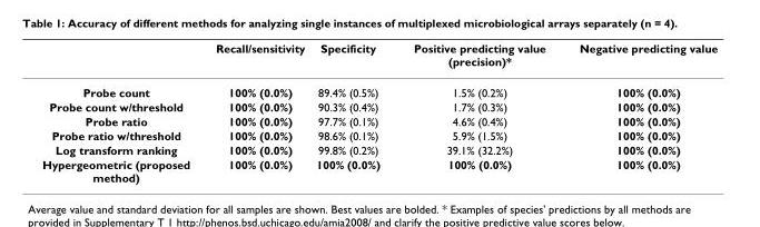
<table><thead><tr><td></td><td>Recall/sensitivity</td><td>Specificity</td><td>Positive predicting value (precision)*</td><td>Negative predicting value</td></tr></thead><tbody><tr><td>Probe count</td><td>100% (0.0%)</td><td>89.4% (0.5%)</td><td>1.5% (0.2%)</td><td>100% (0.0%)</td></tr><tr><td>Probe count w/threshold</td><td>100% (0.0%)</td><td>90.3% (0.4%)</td><td>1.7% (0.3%)</td><td>100% (0.0%)</td></tr><tr><td>Probe ratio</td><td>100% (0.0%)</td><td>97.7% (0.1%)</td><td>4.6% (0.4%)</td><td>100% (0.0%)</td></tr><tr><td>Probe ratio w/threshold</td><td>100% (0.0%)</td><td>98.6% (0.1%)</td><td>5.9% (1.5%)</td><td>100% (0.0%)</td></tr><tr><td>Log transform ranking</td><td>100% (0.0%)</td><td>99.8% (0.2%)</td><td>39.1% (32.2%)</td><td>100% (0.0%)</td></tr><tr><td>Hypergeometric (proposed method)</td><td>100% (0.0%)</td><td>100% (0.0%)</td><td>100% (0.0%)</td><td>100% (0.0%)</td></tr></tbody></table>